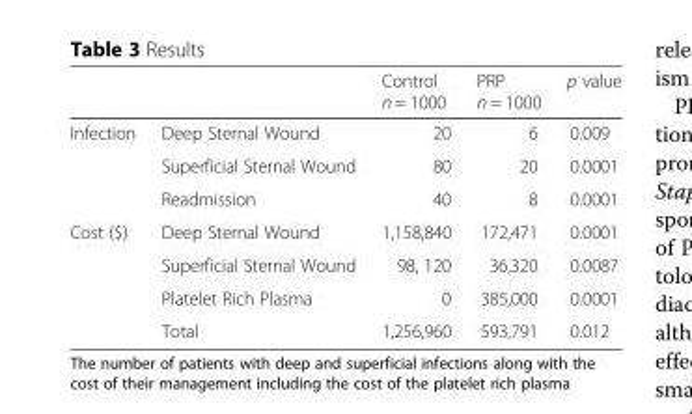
<table><thead><tr><td></td><td></td><td>Control n = 1000</td><td>PRP n = 1000</td><td>p value</td></tr></thead><tbody><tr><td rowspan="3">Infection</td><td>Deep Sternal Wound</td><td>20</td><td>6</td><td>0.009</td></tr><tr><td>Superficial Sternal Wound</td><td>80</td><td>20</td><td>0.0001</td></tr><tr><td>Readmission</td><td>40</td><td>8</td><td>0.0001</td></tr><tr><td rowspan="4">Cost ($)</td><td>Deep Sternal Wound</td><td>1,158,840</td><td>172,471</td><td>0.0001</td></tr><tr><td>Superficial Sternal Wound</td><td>98, 120</td><td>36,320</td><td>0.0087</td></tr><tr><td>Platelet Rich Plasma</td><td>0</td><td>385,000</td><td>0.0001</td></tr><tr><td>Total</td><td>1,256,960</td><td>593,791</td><td>0.012</td></tr></tbody></table>